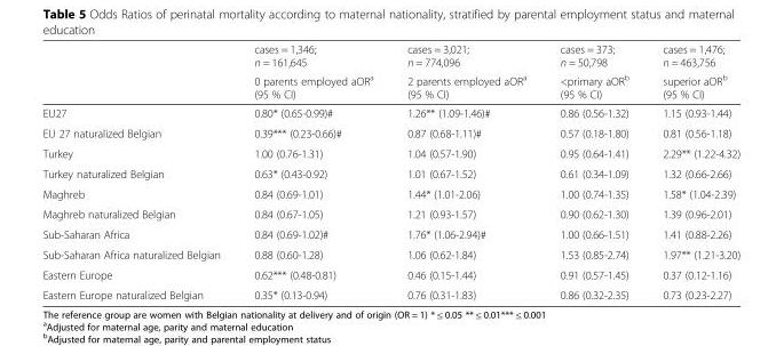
<table><thead><tr><td rowspan="2"></td><td rowspan="2">cases = 1,346; n = 161,645 0 parents employed aOR<sup>a</sup> (95 % CI)</td><td rowspan="2">cases = 3,021; n = 774,096 2 parents employed aOR<sup>a</sup> (95 % CI)</td><td rowspan="2">cases = 373; n = 50,798 &lt;primary aOR<sup>b</sup> (95 % CI)</td><td rowspan="2">cases = 1,476; n = 463,756 superior aOR<sup>b</sup> (95 % CI)</td></tr><tr></tr></thead><tbody><tr><td>EU27</td><td>0.80* (0.65-0.99)#</td><td>1.26** (1.09-1.46)#</td><td>0.86 (0.56-1.32)</td><td>1.15 (0.93-1.44)</td></tr><tr><td>EU 27 naturalized Belgian</td><td>0.39*** (0.23-0.66)#</td><td>0.87 (0.68-1.11)#</td><td>0.57 (0.18-1.80)</td><td>0.81 (0.56-1.18)</td></tr><tr><td>Turkey</td><td>1.00 (0.76-1.31)</td><td>1.04 (0.57-1.90)</td><td>0.95 (0.64-1.41)</td><td>2.29** (1.22-4.32)</td></tr><tr><td>Turkey naturalized Belgian</td><td>0.63* (0.43-0.92)</td><td>1.01 (0.67-1.52)</td><td>0.61 (0.34-1.09)</td><td>1.32 (0.66-2.66)</td></tr><tr><td>Maghreb</td><td>0.84 (0.69-1.01)</td><td>1.44* (1.01-2.06)</td><td>1.00 (0.74-1.35)</td><td>1.58* (1.04-2.39)</td></tr><tr><td>Maghreb naturalized Belgian</td><td>0.84 (0.67-1.05)</td><td>1.21 (0.93-1.57)</td><td>0.90 (0.62-1.30)</td><td>1.39 (0.96-2.01)</td></tr><tr><td>Sub-Saharan Africa</td><td>0.84 (0.69-1.02)#</td><td>1.76* (1.06-2.94)#</td><td>1.00 (0.66-1.51)</td><td>1.41 (0.88-2.26)</td></tr><tr><td>Sub-Saharan Africa naturalized Belgian</td><td>0.88 (0.60-1.28)</td><td>1.06 (0.62-1.84)</td><td>1.53 (0.85-2.74)</td><td>1.97** (1.21-3.20)</td></tr><tr><td>Eastern Europe</td><td>0.62*** (0.48-0.81)</td><td>0.46 (0.15-1.44)</td><td>0.91 (0.57-1.45)</td><td>0.37 (0.12-1.16)</td></tr><tr><td>Eastern Europe naturalized Belgian</td><td>0.35* (0.13-0.94)</td><td>0.76 (0.31-1.83)</td><td>0.86 (0.32-2.35)</td><td>0.73 (0.23-2.27)</td></tr></tbody></table>